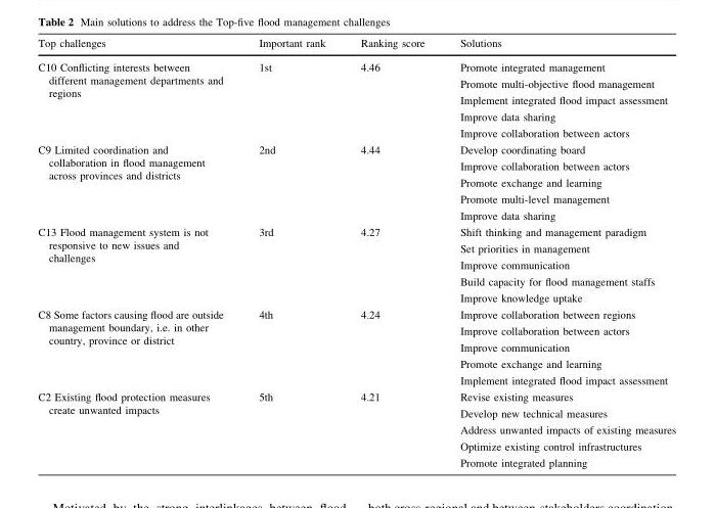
<table><thead><tr><td>Top challenges</td><td>Important rank</td><td>Ranking score</td><td>Solutions</td></tr></thead><tbody><tr><td>C10 Conflicting interests between different management departments and regions</td><td>1st</td><td>4.46</td><td>Promote integrated management Promote multi-objective flood management Implement integrated flood impact assessment Improve data sharing Improve collaboration between actors</td></tr><tr><td>C9 Limited coordination and collaboration in flood management across provinces and districts</td><td>2nd</td><td>4.44</td><td>Develop coordinating board Improve collaboration between actors Promote exchange and learning Promote multi-level management Improve data sharing</td></tr><tr><td>C13 Flood management system is not responsive to new issues and challenges</td><td>3rd</td><td>4.27</td><td>Shift thinking and management paradigm Set priorities in management Improve communication Build capacity for flood management staffs Improve knowledge uptake</td></tr><tr><td>C8 Some factors causing flood are outside management boundary, i.e. in other country, province or district</td><td>4th</td><td>4.24</td><td>Improve collaboration between regions Improve collaboration between actors Improve communication Promote exchange and learning Implement integrated flood impact assessment</td></tr><tr><td>C2 Existing flood protection measures create unwanted impacts</td><td>5th</td><td>4.21</td><td>Revise existing measures Develop new technical measures Address unwanted impacts of existing measures Optimize existing control infrastructures Promote integrated planning</td></tr></tbody></table>